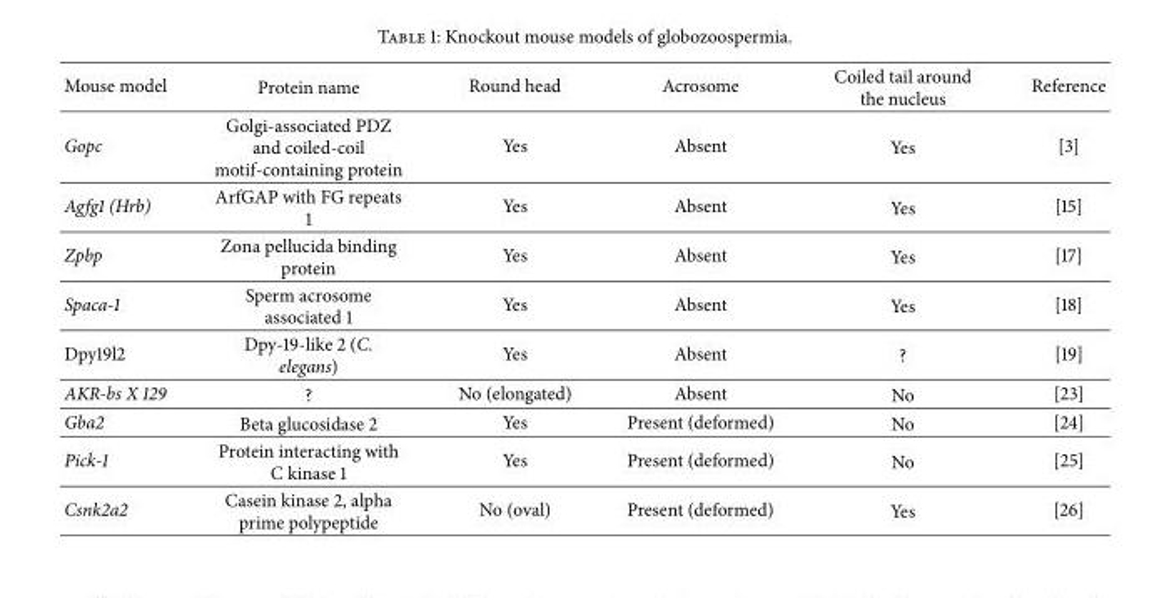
<table><thead><tr><td>Mouse model</td><td>Protein name</td><td>Round head</td><td>Acrosome</td><td>Coiled tail around the nucleus</td><td>Reference</td></tr></thead><tbody><tr><td>Gopc</td><td>Golgi-associated PDZ and coiled-coil motif-containing protein</td><td>Yes</td><td>Absent</td><td>Yes</td><td>[3]</td></tr><tr><td>Agfg1 (Hrb)</td><td>ArfGAP with FG repeats 1</td><td>Yes</td><td>Absent</td><td>Yes</td><td>[15]</td></tr><tr><td>Zpbp</td><td>Zona pellucida binding protein</td><td>Yes</td><td>Absent</td><td>Yes</td><td>[17]</td></tr><tr><td>Spaca-1</td><td>Sperm acrosome associated 1</td><td>Yes</td><td>Absent</td><td>Yes</td><td>[18]</td></tr><tr><td>Dpy19l2</td><td>Dpy-19-like 2 (C. elegans)</td><td>Yes</td><td>Absent</td><td>?</td><td>[19]</td></tr><tr><td>AKR-bs X 129</td><td>?</td><td>No (elongated)</td><td>Absent</td><td>No</td><td>[23]</td></tr><tr><td>Gba2</td><td>Beta glucosidase 2</td><td>Yes</td><td>Present (deformed)</td><td>No</td><td>[24]</td></tr><tr><td>Pick-1</td><td>Protein interacting with C kinase 1</td><td>Yes</td><td>Present (deformed)</td><td>No</td><td>[25]</td></tr><tr><td>Csnk2a2</td><td>Casein kinase 2, alpha prime polypeptide</td><td>No (oval)</td><td>Present (deformed)</td><td>Yes</td><td>[26]</td></tr></tbody></table>